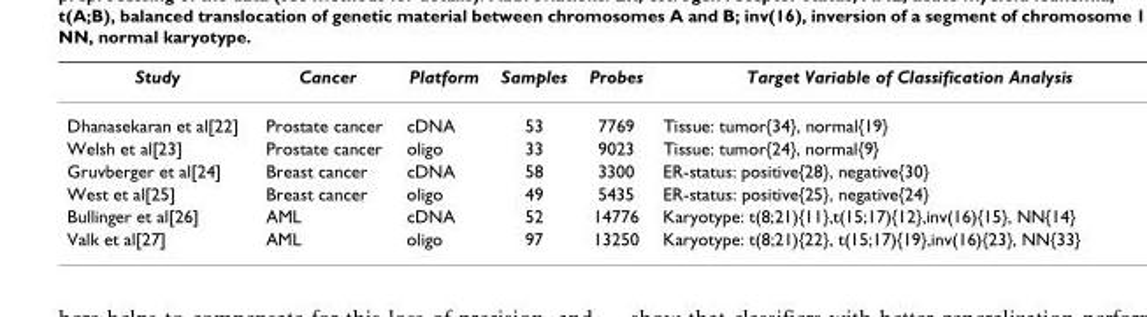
<table><thead><tr><td>Study</td><td>Cancer</td><td>Platform</td><td>Samples</td><td>Probes</td><td>Target Variable of Classification Analysis</td></tr></thead><tbody><tr><td>Dhanasekaran et al[22]</td><td>Prostate cancer</td><td>cDNA</td><td>53</td><td>7769</td><td>Tissue: tumor{34}, normal{19}</td></tr><tr><td>Welsh et al[23]</td><td>Prostate cancer</td><td>oligo</td><td>33</td><td>9023</td><td>Tissue: tumor{24}, normal{9}</td></tr><tr><td>Gruvberger et al[24]</td><td>Breast cancer</td><td>cDNA</td><td>58</td><td>3300</td><td>ER-status: positive{28}, negative{30}</td></tr><tr><td>West et al[25]</td><td>Breast cancer</td><td>oligo</td><td>49</td><td>5435</td><td>ER-status: positive{25}, negative{24}</td></tr><tr><td>Bullinger et al[26]</td><td>AML</td><td>cDNA</td><td>52</td><td>14776</td><td>Karyotype: t(8;21){11},t(15;17){12},inv(16){15}, NN{14}</td></tr><tr><td>Valk et al[27]</td><td>AML</td><td>oligo</td><td>97</td><td>13250</td><td>Karyotype: t(8;21){22}, t(15;17){19},inv(16){23}, NN{33}</td></tr></tbody></table>